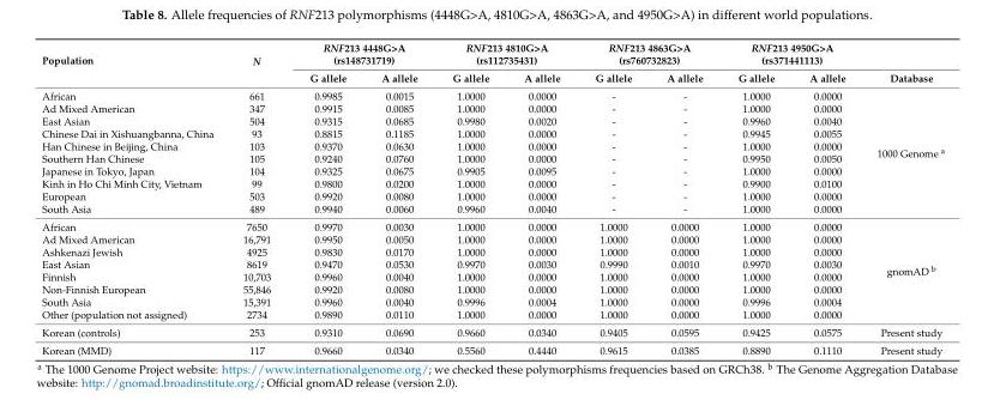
<table><thead><tr><td rowspan="2">Population</td><td rowspan="2">N</td><td colspan="2">RNF213 4448G&gt;A (rs148731719)</td><td colspan="2">RNF213 4810G&gt;A (rs112735431)</td><td colspan="2">RNF213 4863G&gt;A (rs760732823)</td><td colspan="2">RNF213 4950G&gt;A (rs371441113)</td><td rowspan="2">Database</td></tr><tr><td>G allele</td><td>A allele</td><td>G allele</td><td>A allele</td><td>G allele</td><td>A allele</td><td>G allele</td><td>A allele</td></tr></thead><tbody><tr><td>African</td><td>661</td><td>0.9985</td><td>0.0015</td><td>1.0000</td><td>0.0000</td><td>-</td><td>-</td><td>1.0000</td><td>0.0000</td><td rowspan="10">1000 Genome <sup>a</sup></td></tr><tr><td>Ad Mixed American</td><td>347</td><td>0.9915</td><td>0.0085</td><td>1.0000</td><td>0.0000</td><td>-</td><td>-</td><td>1.0000</td><td>0.0000</td></tr><tr><td>East Asian</td><td>504</td><td>0.9315</td><td>0.0685</td><td>0.9980</td><td>0.0020</td><td>-</td><td>-</td><td>0.9960</td><td>0.0040</td></tr><tr><td>Chinese Dai in Xishuangbanna, China</td><td>93</td><td>0.8815</td><td>0.1185</td><td>1.0000</td><td>0.0000</td><td>-</td><td>-</td><td>0.9945</td><td>0.0055</td></tr><tr><td>Han Chinese in Beijing, China</td><td>103</td><td>0.9370</td><td>0.0630</td><td>1.0000</td><td>0.0000</td><td>-</td><td>-</td><td>1.0000</td><td>0.0000</td></tr><tr><td>Southern Han Chinese</td><td>105</td><td>0.9240</td><td>0.0760</td><td>1.0000</td><td>0.0000</td><td>-</td><td>-</td><td>0.9950</td><td>0.0050</td></tr><tr><td>Japanese in Tokyo, Japan</td><td>104</td><td>0.9325</td><td>0.0675</td><td>0.9905</td><td>0.0095</td><td>-</td><td>-</td><td>1.0000</td><td>0.0000</td></tr><tr><td>Kinh in Ho Chi Minh City, Vietnam</td><td>99</td><td>0.9800</td><td>0.0200</td><td>1.0000</td><td>0.0000</td><td>-</td><td>-</td><td>0.9900</td><td>0.0100</td></tr><tr><td>European</td><td>503</td><td>0.9920</td><td>0.0080</td><td>1.0000</td><td>0.0000</td><td>-</td><td>-</td><td>1.0000</td><td>0.0000</td></tr><tr><td>South Asia</td><td>489</td><td>0.9940</td><td>0.0060</td><td>0.9960</td><td>0.0040</td><td>-</td><td>-</td><td>1.0000</td><td>0.0000</td></tr><tr><td>African</td><td>7650</td><td>0.9970</td><td>0.0030</td><td>1.0000</td><td>0.0000</td><td>1.0000</td><td>0.0000</td><td>1.0000</td><td>0.0000</td><td rowspan="8">gnomAD <sup>b</sup></td></tr><tr><td>Ad Mixed American</td><td>16,791</td><td>0.9950</td><td>0.0050</td><td>1.0000</td><td>0.0000</td><td>1.0000</td><td>0.0000</td><td>1.0000</td><td>0.0000</td></tr><tr><td>Ashkenazi Jewish</td><td>4925</td><td>0.9830</td><td>0.0170</td><td>1.0000</td><td>0.0000</td><td>1.0000</td><td>0.0000</td><td>1.0000</td><td>0.0000</td></tr><tr><td>East Asian</td><td>8619</td><td>0.9470</td><td>0.0530</td><td>0.9970</td><td>0.0030</td><td>0.9990</td><td>0.0010</td><td>0.9970</td><td>0.0030</td></tr><tr><td>Finnish</td><td>10,703</td><td>0.9960</td><td>0.0040</td><td>1.0000</td><td>0.0000</td><td>1.0000</td><td>0.0000</td><td>1.0000</td><td>0.0000</td></tr><tr><td>Non-Finnish European</td><td>55,846</td><td>0.9920</td><td>0.0080</td><td>1.0000</td><td>0.0000</td><td>1.0000</td><td>0.0000</td><td>1.0000</td><td>0.0000</td></tr><tr><td>South Asia</td><td>15,391</td><td>0.9960</td><td>0.0040</td><td>0.9996</td><td>0.0004</td><td>1.0000</td><td>0.0000</td><td>0.9996</td><td>0.0004</td></tr><tr><td>Other (population not assigned)</td><td>2734</td><td>0.9890</td><td>0.0110</td><td>1.0000</td><td>0.0000</td><td>1.0000</td><td>0.0000</td><td>1.0000</td><td>0.0000</td></tr><tr><td>Korean (controls)</td><td>253</td><td>0.9310</td><td>0.0690</td><td>0.9660</td><td>0.0340</td><td>0.9405</td><td>0.0595</td><td>0.9425</td><td>0.0575</td><td>Present study</td></tr><tr><td>Korean (MMD)</td><td>117</td><td>0.9660</td><td>0.0340</td><td>0.5560</td><td>0.4440</td><td>0.9615</td><td>0.0385</td><td>0.8890</td><td>0.1110</td><td>Present study</td></tr></tbody></table>